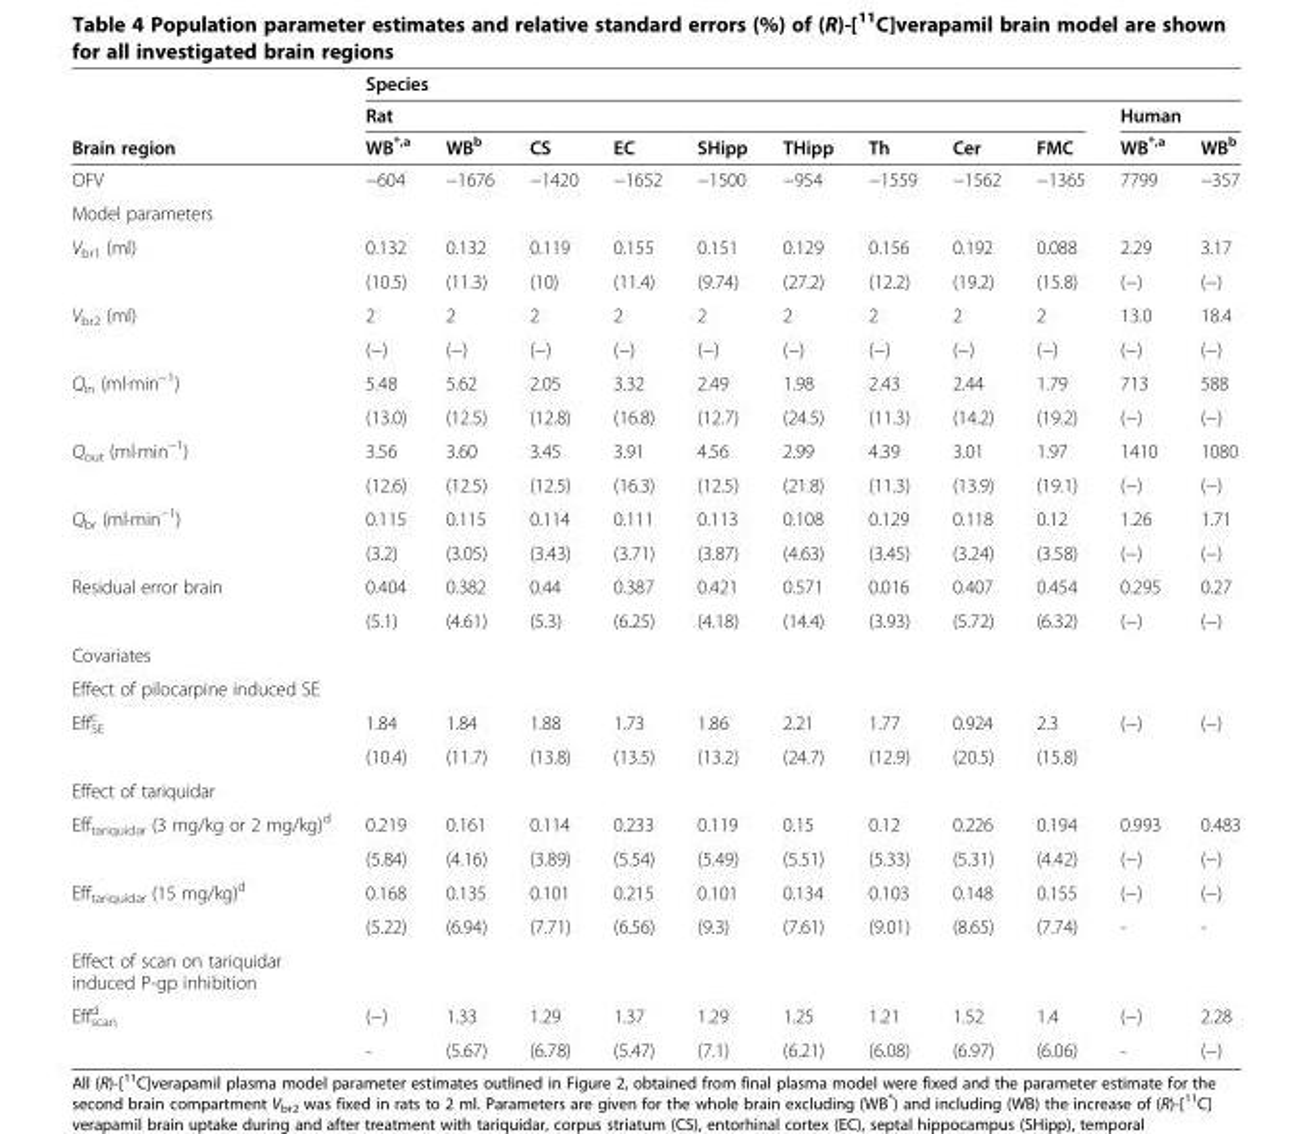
<table><thead><tr><td rowspan="3">Brain region</td><td colspan="11">Species</td></tr><tr><td colspan="9">Rat</td><td colspan="2">Human</td></tr><tr><td>WB<sup>*,a</sup></td><td>WB<sup>b</sup></td><td>CS</td><td>EC</td><td>SHipp</td><td>THipp</td><td>Th</td><td>Cer</td><td>FMC</td><td>WB<sup>*,a</sup></td><td>WB<sup>b</sup></td></tr></thead><tbody><tr><td>OFV</td><td>−604</td><td>−1676</td><td>−1420</td><td>−1652</td><td>−1500</td><td>−954</td><td>−1559</td><td>−1562</td><td>−1365</td><td>7799</td><td>−357</td></tr><tr><td colspan="12">Model parameters</td></tr><tr><td rowspan="2">V<sub>br1</sub> (ml)</td><td>0.132</td><td>0.132</td><td>0.119</td><td>0.155</td><td>0.151</td><td>0.129</td><td>0.156</td><td>0.192</td><td>0.088</td><td>2.29</td><td>3.17</td></tr><tr><td>(10.5)</td><td>(11.3)</td><td>(10)</td><td>(11.4)</td><td>(9.74)</td><td>(27.2)</td><td>(12.2)</td><td>(19.2)</td><td>(15.8)</td><td>(−)</td><td>(−)</td></tr><tr><td rowspan="2">V<sub>br2</sub> (ml)</td><td>2</td><td>2</td><td>2</td><td>2</td><td>2</td><td>2</td><td>2</td><td>2</td><td>2</td><td>13.0</td><td>18.4</td></tr><tr><td>(−)</td><td>(−)</td><td>(−)</td><td>(−)</td><td>(−)</td><td>(−)</td><td>(−)</td><td>(−)</td><td>(−)</td><td>(−)</td><td>(−)</td></tr><tr><td rowspan="2">Q<sub>in</sub> (ml·min<sup>−1</sup>)</td><td>5.48</td><td>5.62</td><td>2.05</td><td>3.32</td><td>2.49</td><td>1.98</td><td>2.43</td><td>2.44</td><td>1.79</td><td>713</td><td>588</td></tr><tr><td>(13.0)</td><td>(12.5)</td><td>(12.8)</td><td>(16.8)</td><td>(12.7)</td><td>(24.5)</td><td>(11.3)</td><td>(14.2)</td><td>(19.2)</td><td>(−)</td><td>(−)</td></tr><tr><td rowspan="2">Q<sub>out</sub> (ml·min<sup>−1</sup>)</td><td>3.56</td><td>3.60</td><td>3.45</td><td>3.91</td><td>4.56</td><td>2.99</td><td>4.39</td><td>3.01</td><td>1.97</td><td>1410</td><td>1080</td></tr><tr><td>(12.6)</td><td>(12.5)</td><td>(12.5)</td><td>(16.3)</td><td>(12.5)</td><td>(21.8)</td><td>(11.3)</td><td>(13.9)</td><td>(19.1)</td><td>(−)</td><td>(−)</td></tr><tr><td rowspan="2">Q<sub>br</sub> (ml·min<sup>−1</sup>)</td><td>0.115</td><td>0.115</td><td>0.114</td><td>0.111</td><td>0.113</td><td>0.108</td><td>0.129</td><td>0.118</td><td>0.12</td><td>1.26</td><td>1.71</td></tr><tr><td>(3.2)</td><td>(3.05)</td><td>(3.43)</td><td>(3.71)</td><td>(3.87)</td><td>(4.63)</td><td>(3.45)</td><td>(3.24)</td><td>(3.58)</td><td>(−)</td><td>(−)</td></tr><tr><td rowspan="2">Residual error brain</td><td>0.404</td><td>0.382</td><td>0.44</td><td>0.387</td><td>0.421</td><td>0.571</td><td>0.016</td><td>0.407</td><td>0.454</td><td>0.295</td><td>0.27</td></tr><tr><td>(5.1)</td><td>(4.61)</td><td>(5.3)</td><td>(6.25)</td><td>(4.18)</td><td>(14.4)</td><td>(3.93)</td><td>(5.72)</td><td>(6.32)</td><td>(−)</td><td>(−)</td></tr><tr><td colspan="12">Covariates</td></tr><tr><td colspan="12">Effect of pilocarpine induced SE</td></tr><tr><td rowspan="2">Eff<sub>SE</sub> <sup>c</sup></td><td>1.84</td><td>1.84</td><td>1.88</td><td>1.73</td><td>1.86</td><td>2.21</td><td>1.77</td><td>0.924</td><td>2.3</td><td>(−)</td><td>(−)</td></tr><tr><td>(10.4)</td><td>(11.7)</td><td>(13.8)</td><td>(13.5)</td><td>(13.2)</td><td>(24.7)</td><td>(12.9)</td><td>(20.5)</td><td>(15.8)</td><td></td><td></td></tr><tr><td colspan="12">Effect of tariquidar</td></tr><tr><td rowspan="2">Eff<sub>tariquidar</sub> (3 mg/kg or 2 mg/kg)<sup>d</sup></td><td>0.219</td><td>0.161</td><td>0.114</td><td>0.233</td><td>0.119</td><td>0.15</td><td>0.12</td><td>0.226</td><td>0.194</td><td>0.993</td><td>0.483</td></tr><tr><td>(5.84)</td><td>(4.16)</td><td>(3.89)</td><td>(5.54)</td><td>(5.49)</td><td>(5.51)</td><td>(5.33)</td><td>(5.31)</td><td>(4.42)</td><td>(−)</td><td>(−)</td></tr><tr><td rowspan="2">Eff<sub>tariquidar</sub> (15 mg/kg)<sup>d</sup></td><td>0.168</td><td>0.135</td><td>0.101</td><td>0.215</td><td>0.101</td><td>0.134</td><td>0.103</td><td>0.148</td><td>0.155</td><td>(−)</td><td>(−)</td></tr><tr><td>(5.22)</td><td>(6.94)</td><td>(7.71)</td><td>(6.56)</td><td>(9.3)</td><td>(7.61)</td><td>(9.01)</td><td>(8.65)</td><td>(7.74)</td><td>-</td><td>-</td></tr><tr><td colspan="12">Effect of scan on tariquidar induced P-gp inhibition</td></tr><tr><td rowspan="2">Eff<sub>scan</sub> <sup>d</sup></td><td>(−)</td><td>1.33</td><td>1.29</td><td>1.37</td><td>1.29</td><td>1.25</td><td>1.21</td><td>1.52</td><td>1.4</td><td>(−)</td><td>2.28</td></tr><tr><td>-</td><td>(5.67)</td><td>(6.78)</td><td>(5.47)</td><td>(7.1)</td><td>(6.21)</td><td>(6.08)</td><td>(6.97)</td><td>(6.06)</td><td>-</td><td>(−)</td></tr></tbody></table>